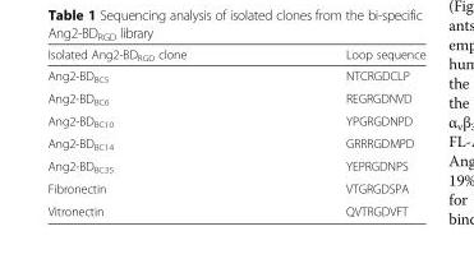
<table><thead><tr><td>Isolated Ang2-BD<sub>RGD</sub> clone</td><td>Loop sequence</td></tr></thead><tbody><tr><td>Ang2-BD<sub>BC5</sub></td><td>NTCRGDCLP</td></tr><tr><td>Ang2-BD<sub>BC6</sub></td><td>REGRGDNVD</td></tr><tr><td>Ang2-BD<sub>BC10</sub></td><td>YPGRGDNPD</td></tr><tr><td>Ang2-BD<sub>BC14</sub></td><td>GRRRGDMPD</td></tr><tr><td>Ang2-BD<sub>BC35</sub></td><td>YEPRGDNPS</td></tr><tr><td>Fibronectin</td><td>VTGRGDSPA</td></tr><tr><td>Vitronectin</td><td>QVTRGDVFT</td></tr></tbody></table>